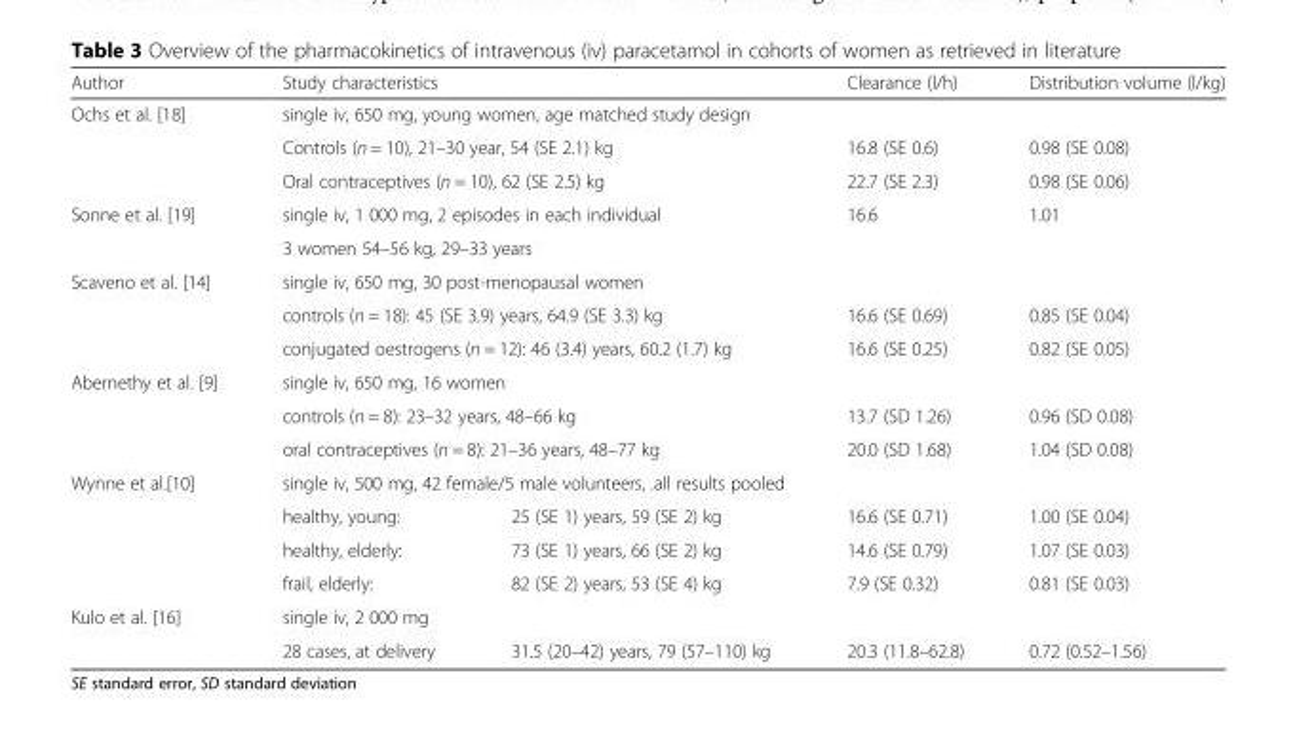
<table><thead><tr><td>Author</td><td colspan="2">Study characteristics</td><td>Clearance (l/h)</td><td>Distribution volume (l/kg)</td></tr></thead><tbody><tr><td rowspan="3">Ochs et al. [18]</td><td colspan="4">single iv, 650 mg, young women, age matched study design</td></tr><tr><td colspan="2">Controls (n = 10), 21–30 year, 54 (SE 2.1) kg</td><td>16.8 (SE 0.6)</td><td>0.98 (SE 0.08)</td></tr><tr><td colspan="2">Oral contraceptives (n = 10), 62 (SE 2.5) kg</td><td>22.7 (SE 2.3)</td><td>0.98 (SE 0.06)</td></tr><tr><td rowspan="2">Sonne et al. [19]</td><td colspan="2">single iv, 1 000 mg, 2 episodes in each individual</td><td rowspan="2">16.6</td><td rowspan="2">1.01</td></tr><tr><td colspan="2">3 women 54–56 kg, 29–33 years</td></tr><tr><td rowspan="3">Scaveno et al. [14]</td><td colspan="4">single iv, 650 mg, 30 post-menopausal women</td></tr><tr><td colspan="2">controls (n = 18): 45 (SE 3.9) years, 64.9 (SE 3.3) kg</td><td>16.6 (SE 0.69)</td><td>0.85 (SE 0.04)</td></tr><tr><td colspan="2">conjugated oestrogens (n = 12): 46 (3.4) years, 60.2 (1.7) kg</td><td>16.6 (SE 0.25)</td><td>0.82 (SE 0.05)</td></tr><tr><td rowspan="3">Abernethy et al. [9]</td><td colspan="4">single iv, 650 mg, 16 women</td></tr><tr><td colspan="2">controls (n = 8): 23–32 years, 48–66 kg</td><td>13.7 (SD 1.26)</td><td>0.96 (SD 0.08)</td></tr><tr><td colspan="2">oral contraceptives (n = 8): 21–36 years, 48–77 kg</td><td>20.0 (SD 1.68)</td><td>1.04 (SD 0.08)</td></tr><tr><td rowspan="4">Wynne et al.[10]</td><td colspan="4">single iv, 500 mg, 42 female/5 male volunteers, .all results pooled</td></tr><tr><td>healthy, young:</td><td>25 (SE 1) years, 59 (SE 2) kg</td><td>16.6 (SE 0.71)</td><td>1.00 (SE 0.04)</td></tr><tr><td>healthy, elderly:</td><td>73 (SE 1) years, 66 (SE 2) kg</td><td>14.6 (SE 0.79)</td><td>1.07 (SE 0.03)</td></tr><tr><td>frail, elderly:</td><td>82 (SE 2) years, 53 (SE 4) kg</td><td>7.9 (SE 0.32)</td><td>0.81 (SE 0.03)</td></tr><tr><td rowspan="2">Kulo et al. [16]</td><td colspan="4">single iv, 2 000 mg</td></tr><tr><td>28 cases, at delivery</td><td>31.5 (20–42) years, 79 (57–110) kg</td><td>20.3 (11.8–62.8)</td><td>0.72 (0.52–1.56)</td></tr></tbody></table>